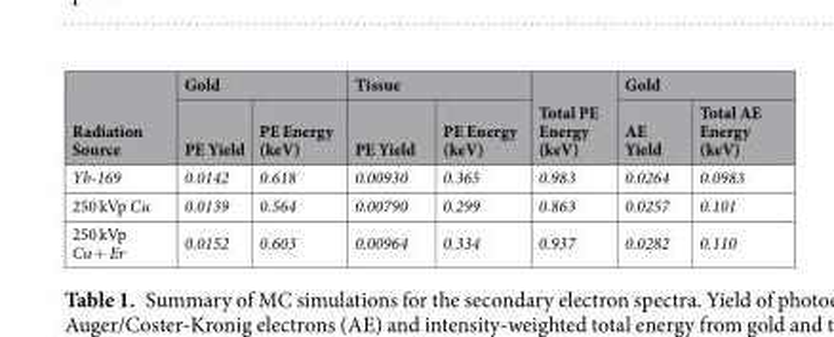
<table><thead><tr><td rowspan="2">Radiation Source</td><td colspan="2">Gold</td><td colspan="2">Tissue</td><td rowspan="2">Total PE Energy (keV)</td><td colspan="2">Gold</td></tr><tr><td>PE Yield</td><td>PE Energy (keV)</td><td>PE Yield</td><td>PE Energy (keV)</td><td>AE Yield</td><td>Total AE Energy (keV)</td></tr></thead><tbody><tr><td>Yb-169</td><td>0.0142</td><td>0.618</td><td>0.00930</td><td>0.365</td><td>0.983</td><td>0.0264</td><td>0.0983</td></tr><tr><td>250 kVp Cu</td><td>0.0139</td><td>0.564</td><td>0.00790</td><td>0.299</td><td>0.863</td><td>0.0257</td><td>0.101</td></tr><tr><td>250 kVp Cu + Er</td><td>0.0152</td><td>0.603</td><td>0.00964</td><td>0.334</td><td>0.937</td><td>0.0282</td><td>0.110</td></tr></tbody></table>